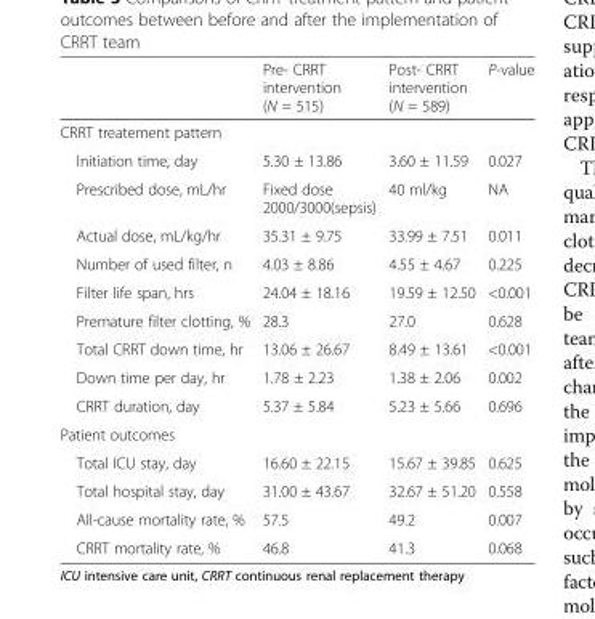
<table><thead><tr><td></td><td>Pre- CRRT intervention (N = 515)</td><td>Post- CRRT intervention (N = 589)</td><td>P-value</td></tr></thead><tbody><tr><td colspan="4">CRRT treatement pattern</td></tr><tr><td>Initiation time, day</td><td>5.30 ± 13.86</td><td>3.60 ± 11.59</td><td>0.027</td></tr><tr><td>Prescribed dose, mL/hr</td><td>Fixed dose 2000/3000(sepsis)</td><td>40 ml/kg</td><td>NA</td></tr><tr><td>Actual dose, mL/kg/hr</td><td>35.31 ± 9.75</td><td>33.99 ± 7.51</td><td>0.011</td></tr><tr><td>Number of used filter, n</td><td>4.03 ± 8.86</td><td>4.55 ± 4.67</td><td>0.225</td></tr><tr><td>Filter life span, hrs</td><td>24.04 ± 18.16</td><td>19.59 ± 12.50</td><td>&lt;0.001</td></tr><tr><td>Premature filter clotting, %</td><td>28.3</td><td>27.0</td><td>0.628</td></tr><tr><td>Total CRRT down time, hr</td><td>13.06 ± 26.67</td><td>8.49 ± 13.61</td><td>&lt;0.001</td></tr><tr><td>Down time per day, hr</td><td>1.78 ± 2.23</td><td>1.38 ± 2.06</td><td>0.002</td></tr><tr><td>CRRT duration, day</td><td>5.37 ± 5.84</td><td>5.23 ± 5.66</td><td>0.696</td></tr><tr><td colspan="4">Patient outcomes</td></tr><tr><td>Total ICU stay, day</td><td>16.60 ± 22.15</td><td>15.67 ± 39.85</td><td>0.625</td></tr><tr><td>Total hospital stay, day</td><td>31.00 ± 43.67</td><td>32.67 ± 51.20</td><td>0.558</td></tr><tr><td>All-cause mortality rate, %</td><td>57.5</td><td>49.2</td><td>0.007</td></tr><tr><td>CRRT mortality rate, %</td><td>46.8</td><td>41.3</td><td>0.068</td></tr></tbody></table>